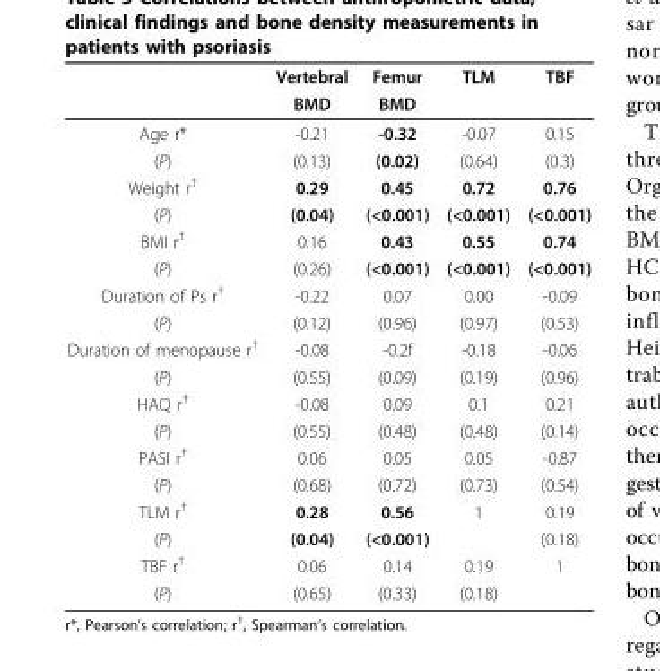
<table><thead><tr><td rowspan="2"></td><td rowspan="2">Vertebral BMD</td><td rowspan="2">Femur BMD</td><td rowspan="2">TLM</td><td rowspan="2">TBF</td></tr><tr></tr></thead><tbody><tr><td>Age r*</td><td>-0.21</td><td>-0.32</td><td>-0.07</td><td>0.15</td></tr><tr><td>(P)</td><td>(0.13)</td><td>(0.02)</td><td>(0.64)</td><td>(0.3)</td></tr><tr><td>Weight r<sup>†</sup></td><td>0.29</td><td>0.45</td><td>0.72</td><td>0.76</td></tr><tr><td>(P)</td><td>(0.04)</td><td>(&lt;0.001)</td><td>(&lt;0.001)</td><td>(&lt;0.001)</td></tr><tr><td>BMI r<sup>†</sup></td><td>0.16</td><td>0.43</td><td>0.55</td><td>0.74</td></tr><tr><td>(P)</td><td>(0.26)</td><td>(&lt;0.001)</td><td>(&lt;0.001)</td><td>(&lt;0.001)</td></tr><tr><td>Duration of Ps r<sup>†</sup></td><td>-0.22</td><td>0.07</td><td>0.00</td><td>-0.09</td></tr><tr><td>(P)</td><td>(0.12)</td><td>(0.96)</td><td>(0.97)</td><td>(0.53)</td></tr><tr><td>Duration of menopause r<sup>†</sup></td><td>-0.08</td><td>-0.2f</td><td>-0.18</td><td>-0.06</td></tr><tr><td>(P)</td><td>(0.55)</td><td>(0.09)</td><td>(0.19)</td><td>(0.96)</td></tr><tr><td>HAQ r<sup>†</sup></td><td>-0.08</td><td>0.09</td><td>0.1</td><td>0.21</td></tr><tr><td>(P)</td><td>(0.55)</td><td>(0.48)</td><td>(0.48)</td><td>(0.14)</td></tr><tr><td>PASI r<sup>†</sup></td><td>0.06</td><td>0.05</td><td>0.05</td><td>-0.87</td></tr><tr><td>(P)</td><td>(0.68)</td><td>(0.72)</td><td>(0.73)</td><td>(0.54)</td></tr><tr><td>TLM r<sup>†</sup></td><td>0.28</td><td>0.56</td><td>1</td><td>0.19</td></tr><tr><td>(P)</td><td>(0.04)</td><td>(&lt;0.001)</td><td></td><td>(0.18)</td></tr><tr><td>TBF r<sup>†</sup></td><td>0.06</td><td>0.14</td><td>0.19</td><td>1</td></tr><tr><td>(P)</td><td>(0.65)</td><td>(0.33)</td><td>(0.18)</td><td></td></tr></tbody></table>